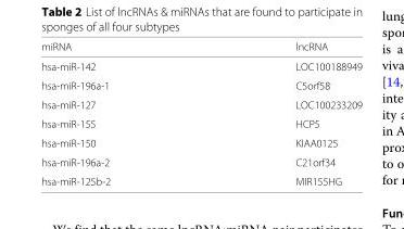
<table><thead><tr><td>miRNA</td><td>lncRNA</td></tr></thead><tbody><tr><td>hsa-miR-142</td><td>LOC100188949</td></tr><tr><td>hsa-miR-196a-1</td><td>C5orf58</td></tr><tr><td>hsa-miR-127</td><td>LOC100233209</td></tr><tr><td>hsa-miR-155</td><td>HCP5</td></tr><tr><td>hsa-miR-150</td><td>KIAA0125</td></tr><tr><td>hsa-miR-196a-2</td><td>C21orf34</td></tr><tr><td>hsa-miR-125b-2</td><td>MIR155HG</td></tr></tbody></table>